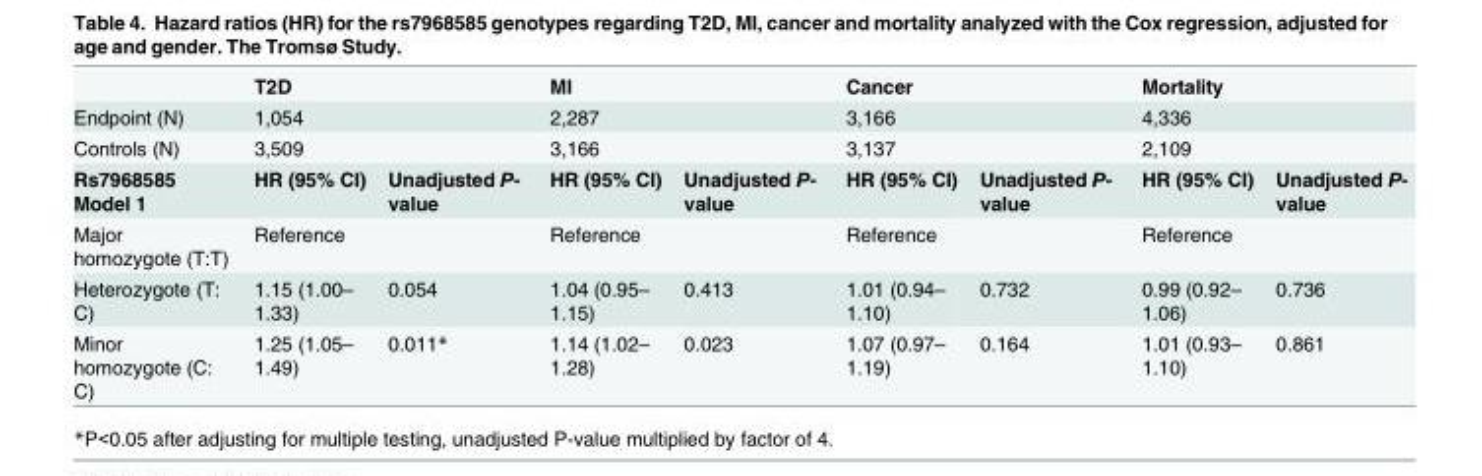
<table><thead><tr><td rowspan="4">Endpoint (N) Controls (N) Rs7968585 Model 1</td><td rowspan="3" colspan="2">T2D 1,054 3,509</td><td rowspan="3" colspan="2">MI 2,287 3,166</td><td rowspan="3" colspan="2">Cancer 3,166 3,137</td><td rowspan="3" colspan="2">Mortality 4,336 2,109</td></tr><tr></tr><tr></tr><tr><td>HR (95% CI)</td><td>Unadjusted P- value</td><td>HR (95% CI)</td><td>Unadjusted P- value</td><td>HR (95% CI)</td><td>Unadjusted P- value</td><td>HR (95% CI)</td><td>Unadjusted P- value</td></tr></thead><tbody><tr><td>Major homozygote (T:T)</td><td>Reference</td><td></td><td>Reference</td><td></td><td>Reference</td><td></td><td>Reference</td><td></td></tr><tr><td>Heterozygote (T: C)</td><td>1.15 (1.00– 1.33)</td><td>0.054</td><td>1.04 (0.95– 1.15)</td><td>0.413</td><td>1.01 (0.94– 1.10)</td><td>0.732</td><td>0.99 (0.92– 1.06)</td><td>0.736</td></tr><tr><td>Minor homozygote (C: C)</td><td>1.25 (1.05– 1.49)</td><td>0.011*</td><td>1.14 (1.02– 1.28)</td><td>0.023</td><td>1.07 (0.97– 1.19)</td><td>0.164</td><td>1.01 (0.93– 1.10)</td><td>0.861</td></tr></tbody></table>